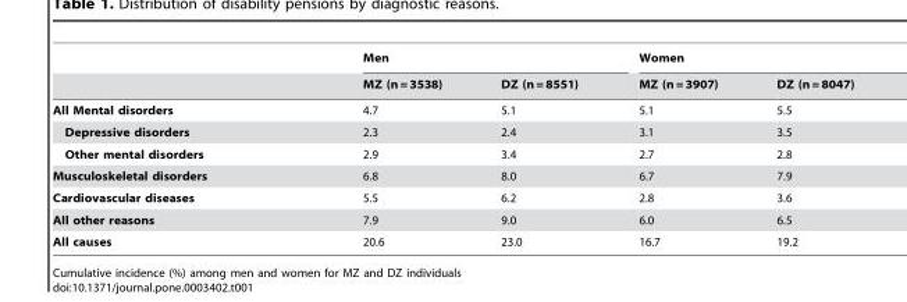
<table><thead><tr><td rowspan="2"></td><td colspan="2">Men</td><td colspan="2">Women</td></tr><tr><td>MZ (n = 3538)</td><td>DZ (n = 8551)</td><td>MZ (n = 3907)</td><td>DZ (n = 8047)</td></tr></thead><tbody><tr><td>All Mental disorders</td><td>4.7</td><td>5.1</td><td>5.1</td><td>5.5</td></tr><tr><td>Depressive disorders</td><td>2.3</td><td>2.4</td><td>3.1</td><td>3.5</td></tr><tr><td>Other mental disorders</td><td>2.9</td><td>3.4</td><td>2.7</td><td>2.8</td></tr><tr><td>Musculoskeletal disorders</td><td>6.8</td><td>8.0</td><td>6.7</td><td>7.9</td></tr><tr><td>Cardiovascular diseases</td><td>5.5</td><td>6.2</td><td>2.8</td><td>3.6</td></tr><tr><td>All other reasons</td><td>7.9</td><td>9.0</td><td>6.0</td><td>6.5</td></tr><tr><td>All causes</td><td>20.6</td><td>23.0</td><td>16.7</td><td>19.2</td></tr></tbody></table>